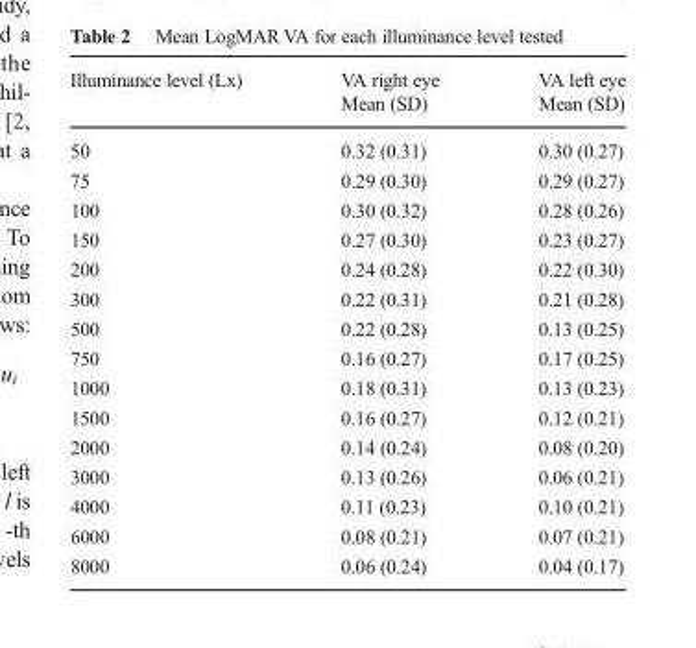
<table><thead><tr><td>Illuminance level (Lx)</td><td>VA right eye Mean (SD)</td><td>VA left eye Mean (SD)</td></tr></thead><tbody><tr><td>50</td><td>0.32 (0.31)</td><td>0.30 (0.27)</td></tr><tr><td>75</td><td>0.29 (0.30)</td><td>0.29 (0.27)</td></tr><tr><td>100</td><td>0.30 (0.32)</td><td>0.28 (0.26)</td></tr><tr><td>150</td><td>0.27 (0.30)</td><td>0.23 (0.27)</td></tr><tr><td>200</td><td>0.24 (0.28)</td><td>0.22 (0.30)</td></tr><tr><td>300</td><td>0.22 (0.31)</td><td>0.21 (0.28)</td></tr><tr><td>500</td><td>0.22 (0.28)</td><td>0.13 (0.25)</td></tr><tr><td>750</td><td>0.16 (0.27)</td><td>0.17 (0.25)</td></tr><tr><td>1000</td><td>0.18 (0.31)</td><td>0.13 (0.23)</td></tr><tr><td>1500</td><td>0.16 (0.27)</td><td>0.12 (0.21)</td></tr><tr><td>2000</td><td>0.14 (0.24)</td><td>0.08 (0.20)</td></tr><tr><td>3000</td><td>0.13 (0.26)</td><td>0.06 (0.21)</td></tr><tr><td>4000</td><td>0.11 (0.23)</td><td>0.10 (0.21)</td></tr><tr><td>6000</td><td>0.08 (0.21)</td><td>0.07 (0.21)</td></tr><tr><td>8000</td><td>0.06 (0.24)</td><td>0.04 (0.17)</td></tr></tbody></table>